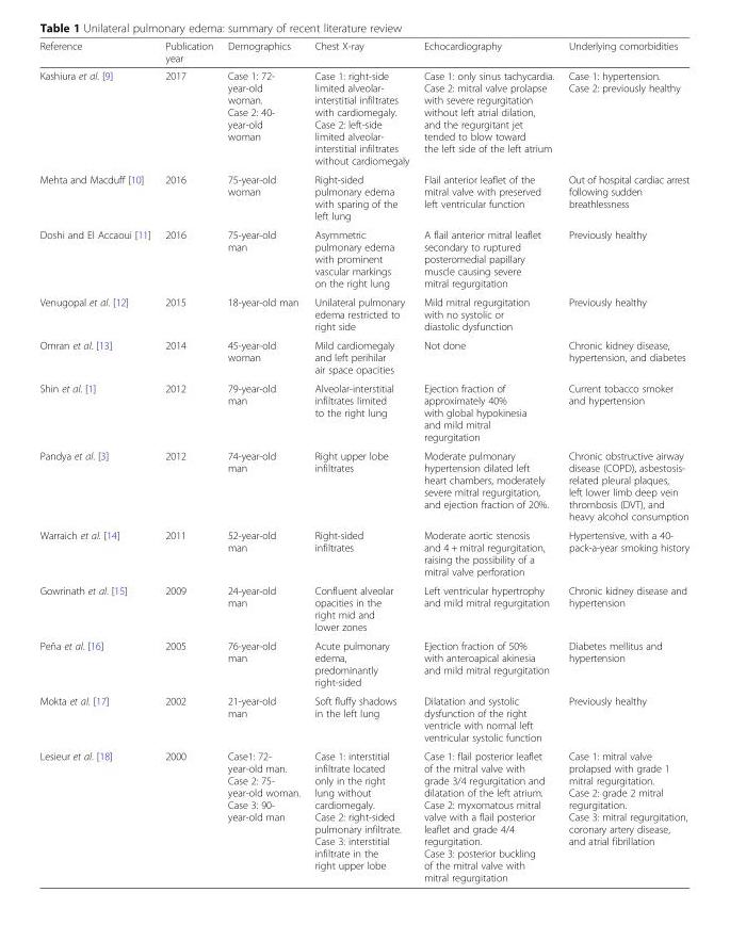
<table><thead><tr><td>Reference</td><td>Publication year</td><td>Demographics</td><td>Chest X-ray</td><td>Echocardiography</td><td>Underlying comorbidities</td></tr></thead><tbody><tr><td>Kashiura et al. [9]</td><td>2017</td><td>Case 1: 72- year-old woman. Case 2: 40- year-old woman</td><td>Case 1: right-side limited alveolar- interstitial infiltrates with cardiomegaly. Case 2: left-side limited alveolar- interstitial infiltrates without cardiomegaly</td><td>Case 1: only sinus tachycardia. Case 2: mitral valve prolapse with severe regurgitation without left atrial dilation, and the regurgitant jet tended to blow toward the left side of the left atrium</td><td>Case 1: hypertension. Case 2: previously healthy</td></tr><tr><td>Mehta and Macduff [10]</td><td>2016</td><td>75-year-old woman</td><td>Right-sided pulmonary edema with sparing of the left lung</td><td>Flail anterior leaflet of the mitral valve with preserved left ventricular function</td><td>Out of hospital cardiac arrest following sudden breathlessness</td></tr><tr><td>Doshi and El Accaoui [11]</td><td>2016</td><td>75-year-old man</td><td>Asymmetric pulmonary edema with prominent vascular markings on the right lung</td><td>A flail anterior mitral leaflet secondary to ruptured posteromedial papillary muscle causing severe mitral regurgitation</td><td>Previously healthy</td></tr><tr><td>Venugopal et al. [12]</td><td>2015</td><td>18-year-old man</td><td>Unilateral pulmonary edema restricted to right side</td><td>Mild mitral regurgitation with no systolic or diastolic dysfunction</td><td>Previously healthy</td></tr><tr><td>Omran et al. [13]</td><td>2014</td><td>45-year-old woman</td><td>Mild cardiomegaly and left perihilar air space opacities</td><td>Not done</td><td>Chronic kidney disease, hypertension, and diabetes</td></tr><tr><td>Shin et al. [1]</td><td>2012</td><td>79-year-old man</td><td>Alveolar-interstitial infiltrates limited to the right lung</td><td>Ejection fraction of approximately 40% with global hypokinesia and mild mitral regurgitation</td><td>Current tobacco smoker and hypertension</td></tr><tr><td>Pandya et al. [3]</td><td>2012</td><td>74-year-old man</td><td>Right upper lobe infiltrates</td><td>Moderate pulmonary hypertension dilated left heart chambers, moderately severe mitral regurgitation, and ejection fraction of 20%.</td><td>Chronic obstructive airway disease (COPD), asbestosis- related pleural plaques, left lower limb deep vein thrombosis (DVT), and heavy alcohol consumption</td></tr><tr><td>Warraich et al. [14]</td><td>2011</td><td>52-year-old man</td><td>Right-sided infiltrates</td><td>Moderate aortic stenosis and 4 + mitral regurgitation, raising the possibility of a mitral valve perforation</td><td>Hypertensive, with a 40- pack-a-year smoking history</td></tr><tr><td>Gowrinath et al. [15]</td><td>2009</td><td>24-year-old man</td><td>Confluent alveolar opacities in the right mid and lower zones</td><td>Left ventricular hypertrophy and mild mitral regurgitation</td><td>Chronic kidney disease and hypertension</td></tr><tr><td>Peña et al. [16]</td><td>2005</td><td>76-year-old man</td><td>Acute pulmonary edema, predominantly right-sided</td><td>Ejection fraction of 50% with anteroapical akinesia and mild mitral regurgitation</td><td>Diabetes mellitus and hypertension</td></tr><tr><td>Mokta et al. [17]</td><td>2002</td><td>21-year-old man</td><td>Soft fluffy shadows in the left lung</td><td>Dilatation and systolic dysfunction of the right ventricle with normal left ventricular systolic function</td><td>Previously healthy</td></tr><tr><td>Lesieur et al. [18]</td><td>2000</td><td>Case1: 72- year-old man. Case 2: 75- year-old woman. Case 3: 90- year-old man</td><td>Case 1: interstitial infiltrate located only in the right lung without cardiomegaly. Case 2: right-sided pulmonary infiltrate. Case 3: interstitial infiltrate in the right upper lobe</td><td>Case 1: flail posterior leaflet of the mitral valve with grade 3/4 regurgitation and dilatation of the left atrium. Case 2: myxomatous mitral valve with a flail posterior leaflet and grade 4/4 regurgitation. Case 3: posterior buckling of the mitral valve with mitral regurgitation</td><td>Case 1: mitral valve prolapsed with grade 1 mitral regurgitation. Case 2: grade 2 mitral regurgitation. Case 3: mitral regurgitation, coronary artery disease, and atrial fibrillation</td></tr></tbody></table>